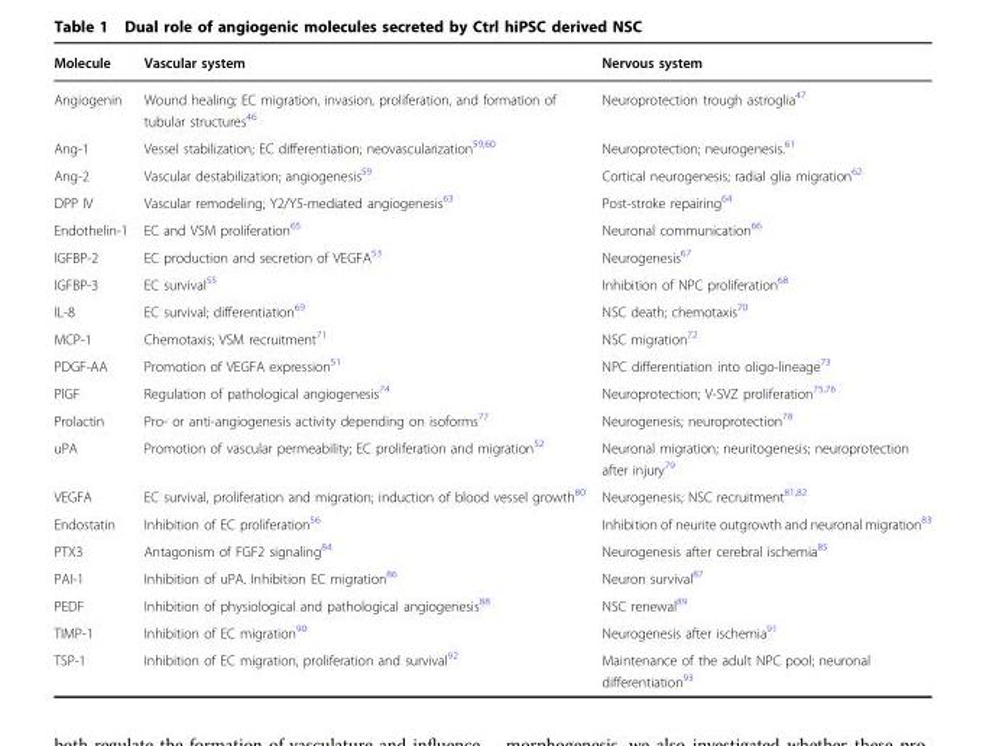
<table><thead><tr><td>Molecule</td><td>Vascular system</td><td>Nervous system</td></tr></thead><tbody><tr><td>Angiogenin</td><td>Wound healing; EC migration, invasion, proliferation, and formation of tubular structures<sup>46</sup></td><td>Neuroprotection trough astroglia<sup>47</sup></td></tr><tr><td>Ang-1</td><td>Vessel stabilization; EC differentiation; neovascularization<sup>59,60</sup></td><td>Neuroprotection; neurogenesis.<sup>61</sup></td></tr><tr><td>Ang-2</td><td>Vascular destabilization; angiogenesis<sup>59</sup></td><td>Cortical neurogenesis; radial glia migration<sup>62</sup></td></tr><tr><td>DPP IV</td><td>Vascular remodeling; Y2/Y5-mediated angiogenesis<sup>63</sup></td><td>Post-stroke repairing<sup>64</sup></td></tr><tr><td>Endothelin-1</td><td>EC and VSM proliferation<sup>65</sup></td><td>Neuronal communication<sup>66</sup></td></tr><tr><td>IGFBP-2</td><td>EC production and secretion of VEGFA<sup>53</sup></td><td>Neurogenesis<sup>67</sup></td></tr><tr><td>IGFBP-3</td><td>EC survival<sup>55</sup></td><td>Inhibition of NPC proliferation<sup>68</sup></td></tr><tr><td>IL-8</td><td>EC survival; differentiation<sup>69</sup></td><td>NSC death; chemotaxis<sup>70</sup></td></tr><tr><td>MCP-1</td><td>Chemotaxis; VSM recruitment<sup>71</sup></td><td>NSC migration<sup>72</sup></td></tr><tr><td>PDGF-AA</td><td>Promotion of VEGFA expression<sup>51</sup></td><td>NPC differentiation into oligo-lineage<sup>73</sup></td></tr><tr><td>PlGF</td><td>Regulation of pathological angiogenesis<sup>74</sup></td><td>Neuroprotection; V-SVZ proliferation<sup>75,76</sup></td></tr><tr><td>Prolactin</td><td>Pro- or anti-angiogenesis activity depending on isoforms<sup>77</sup></td><td>Neurogenesis; neuroprotection<sup>78</sup></td></tr><tr><td>uPA</td><td>Promotion of vascular permeability; EC proliferation and migration<sup>52</sup></td><td>Neuronal migration; neuritogenesis; neuroprotection after injury<sup>79</sup></td></tr><tr><td>VEGFA</td><td>EC survival, proliferation and migration; induction of blood vessel growth<sup>80</sup></td><td>Neurogenesis; NSC recruitment<sup>81,82</sup></td></tr><tr><td>Endostatin</td><td>Inhibition of EC proliferation<sup>56</sup></td><td>Inhibition of neurite outgrowth and neuronal migration<sup>83</sup></td></tr><tr><td>PTX3</td><td>Antagonism of FGF2 signaling<sup>84</sup></td><td>Neurogenesis after cerebral ischemia<sup>85</sup></td></tr><tr><td>PAI-1</td><td>Inhibition of uPA. Inhibition EC migration<sup>86</sup></td><td>Neuron survival<sup>87</sup></td></tr><tr><td>PEDF</td><td>Inhibition of physiological and pathological angiogenesis<sup>88</sup></td><td>NSC renewal<sup>89</sup></td></tr><tr><td>TIMP-1</td><td>Inhibition of EC migration<sup>90</sup></td><td>Neurogenesis after ischemia<sup>91</sup></td></tr><tr><td>TSP-1</td><td>Inhibition of EC migration, proliferation and survival<sup>92</sup></td><td>Maintenance of the adult NPC pool; neuronal differentiation<sup>93</sup></td></tr></tbody></table>